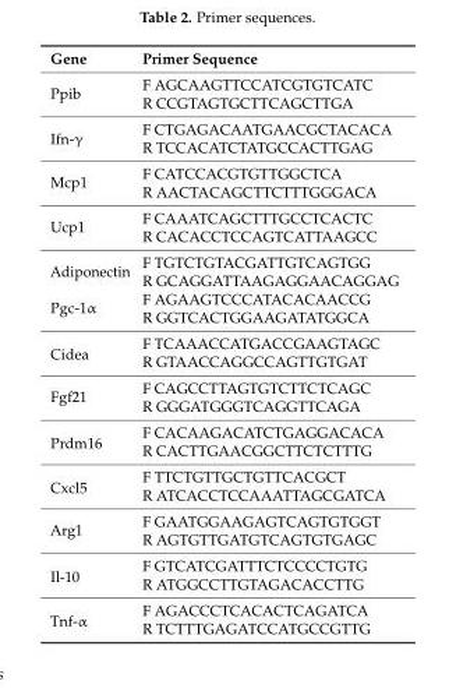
<table><thead><tr><td>Gene</td><td>Primer Sequence</td></tr></thead><tbody><tr><td rowspan="2">Ppib</td><td>F AGCAAGTTCCATCGTGTCATC</td></tr><tr><td>R CCGTAGTGCTTCAGCTTGA</td></tr><tr><td rowspan="2">Ifn-γ</td><td>F CTGAGACAATGAACGCTACACA</td></tr><tr><td>R TCCACATCTATGCCACTTGAG</td></tr><tr><td rowspan="2">Mcp1</td><td>F CATCCACGTGTTGGCTCA</td></tr><tr><td>R AACTACAGCTTCTTTGGGACA</td></tr><tr><td rowspan="2">Ucp1</td><td>F CAAATCAGCTTTGCCTCACTC</td></tr><tr><td>R CACACCTCCAGTCATTAAGCC</td></tr><tr><td rowspan="2">Adiponectin</td><td>F TGTCTGTACGATTGTCAGTGG</td></tr><tr><td>R GCAGGATTAAGAGGAACAGGAG</td></tr><tr><td rowspan="2">Pgc-1α</td><td>F AGAAGTCCCATACACAACCG</td></tr><tr><td>R GGTCACTGGAAGATATGGCA</td></tr><tr><td rowspan="2">Cidea</td><td>F TCAAACCATGACCGAAGTAGC</td></tr><tr><td>R GTAACCAGGCCAGTTGTGAT</td></tr><tr><td rowspan="2">Fgf21</td><td>F CAGCCTTAGTGTCTTCTCAGC</td></tr><tr><td>R GGGATGGGTCAGGTTCAGA</td></tr><tr><td rowspan="2">Prdm16</td><td>F CACAAGACATCTGAGGACACA</td></tr><tr><td>R CACTTGAACGGCTTCTCTTTG</td></tr><tr><td rowspan="2">Cxcl5</td><td>F TTCTGTTGCTGTTCACGCT</td></tr><tr><td>R ATCACCTCCAAATTAGCGATCA</td></tr><tr><td rowspan="2">Arg1</td><td>F GAATGGAAGAGTCAGTGTGGT</td></tr><tr><td>R AGTGTTGATGTCAGTGTGAGC</td></tr><tr><td rowspan="2">Il-10</td><td>F GTCATCGATTTCTCCCCTGTG</td></tr><tr><td>R ATGGCCTTGTAGACACCTTG</td></tr><tr><td rowspan="2">Tnf-α</td><td>F AGACCCTCACACTCAGATCA</td></tr><tr><td>R TCTTTGAGATCCATGCCGTTG</td></tr></tbody></table>